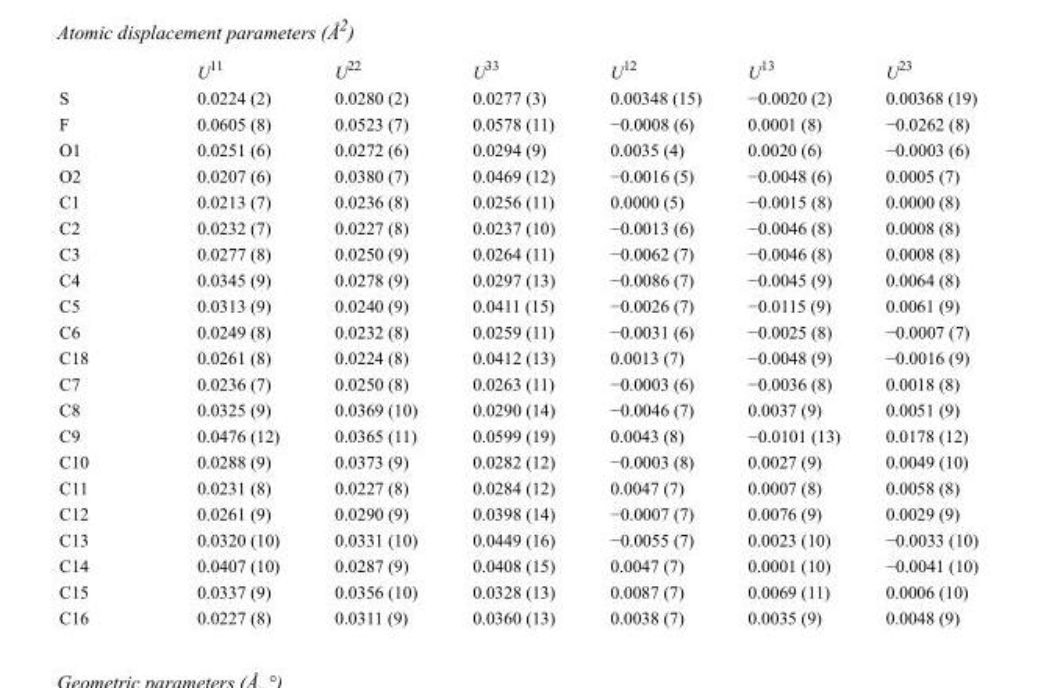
<table><thead><tr><td></td><td>U<sup>11</sup></td><td>U<sup>22</sup></td><td>U<sup>33</sup></td><td>U<sup>12</sup></td><td>U<sup>13</sup></td><td>U<sup>23</sup></td></tr></thead><tbody><tr><td>S</td><td>0.0224 (2)</td><td>0.0280 (2)</td><td>0.0277 (3)</td><td>0.00348 (15)</td><td>−0.0020 (2)</td><td>0.00368 (19)</td></tr><tr><td>F</td><td>0.0605 (8)</td><td>0.0523 (7)</td><td>0.0578 (11)</td><td>−0.0008 (6)</td><td>0.0001 (8)</td><td>−0.0262 (8)</td></tr><tr><td>O1</td><td>0.0251 (6)</td><td>0.0272 (6)</td><td>0.0294 (9)</td><td>0.0035 (4)</td><td>0.0020 (6)</td><td>−0.0003 (6)</td></tr><tr><td>O2</td><td>0.0207 (6)</td><td>0.0380 (7)</td><td>0.0469 (12)</td><td>−0.0016 (5)</td><td>−0.0048 (6)</td><td>0.0005 (7)</td></tr><tr><td>C1</td><td>0.0213 (7)</td><td>0.0236 (8)</td><td>0.0256 (11)</td><td>0.0000 (5)</td><td>−0.0015 (8)</td><td>0.0000 (8)</td></tr><tr><td>C2</td><td>0.0232 (7)</td><td>0.0227 (8)</td><td>0.0237 (10)</td><td>−0.0013 (6)</td><td>−0.0046 (8)</td><td>0.0008 (8)</td></tr><tr><td>C3</td><td>0.0277 (8)</td><td>0.0250 (9)</td><td>0.0264 (11)</td><td>−0.0062 (7)</td><td>−0.0046 (8)</td><td>0.0008 (8)</td></tr><tr><td>C4</td><td>0.0345 (9)</td><td>0.0278 (9)</td><td>0.0297 (13)</td><td>−0.0086 (7)</td><td>−0.0045 (9)</td><td>0.0064 (8)</td></tr><tr><td>C5</td><td>0.0313 (9)</td><td>0.0240 (9)</td><td>0.0411 (15)</td><td>−0.0026 (7)</td><td>−0.0115 (9)</td><td>0.0061 (9)</td></tr><tr><td>C6</td><td>0.0249 (8)</td><td>0.0232 (8)</td><td>0.0259 (11)</td><td>−0.0031 (6)</td><td>−0.0025 (8)</td><td>−0.0007 (7)</td></tr><tr><td>C18</td><td>0.0261 (8)</td><td>0.0224 (8)</td><td>0.0412 (13)</td><td>0.0013 (7)</td><td>−0.0048 (9)</td><td>−0.0016 (9)</td></tr><tr><td>C7</td><td>0.0236 (7)</td><td>0.0250 (8)</td><td>0.0263 (11)</td><td>−0.0003 (6)</td><td>−0.0036 (8)</td><td>0.0018 (8)</td></tr><tr><td>C8</td><td>0.0325 (9)</td><td>0.0369 (10)</td><td>0.0290 (14)</td><td>−0.0046 (7)</td><td>0.0037 (9)</td><td>0.0051 (9)</td></tr><tr><td>C9</td><td>0.0476 (12)</td><td>0.0365 (11)</td><td>0.0599 (19)</td><td>0.0043 (8)</td><td>−0.0101 (13)</td><td>0.0178 (12)</td></tr><tr><td>C10</td><td>0.0288 (9)</td><td>0.0373 (9)</td><td>0.0282 (12)</td><td>−0.0003 (8)</td><td>0.0027 (9)</td><td>0.0049 (10)</td></tr><tr><td>C11</td><td>0.0231 (8)</td><td>0.0227 (8)</td><td>0.0284 (12)</td><td>0.0047 (7)</td><td>0.0007 (8)</td><td>0.0058 (8)</td></tr><tr><td>C12</td><td>0.0261 (9)</td><td>0.0290 (9)</td><td>0.0398 (14)</td><td>−0.0007 (7)</td><td>0.0076 (9)</td><td>0.0029 (9)</td></tr><tr><td>C13</td><td>0.0320 (10)</td><td>0.0331 (10)</td><td>0.0449 (16)</td><td>−0.0055 (7)</td><td>0.0023 (10)</td><td>−0.0033 (10)</td></tr><tr><td>C14</td><td>0.0407 (10)</td><td>0.0287 (9)</td><td>0.0408 (15)</td><td>0.0047 (7)</td><td>0.0001 (10)</td><td>−0.0041 (10)</td></tr><tr><td>C15</td><td>0.0337 (9)</td><td>0.0356 (10)</td><td>0.0328 (13)</td><td>0.0087 (7)</td><td>0.0069 (11)</td><td>0.0006 (10)</td></tr><tr><td>C16</td><td>0.0227 (8)</td><td>0.0311 (9)</td><td>0.0360 (13)</td><td>0.0038 (7)</td><td>0.0035 (9)</td><td>0.0048 (9)</td></tr></tbody></table>